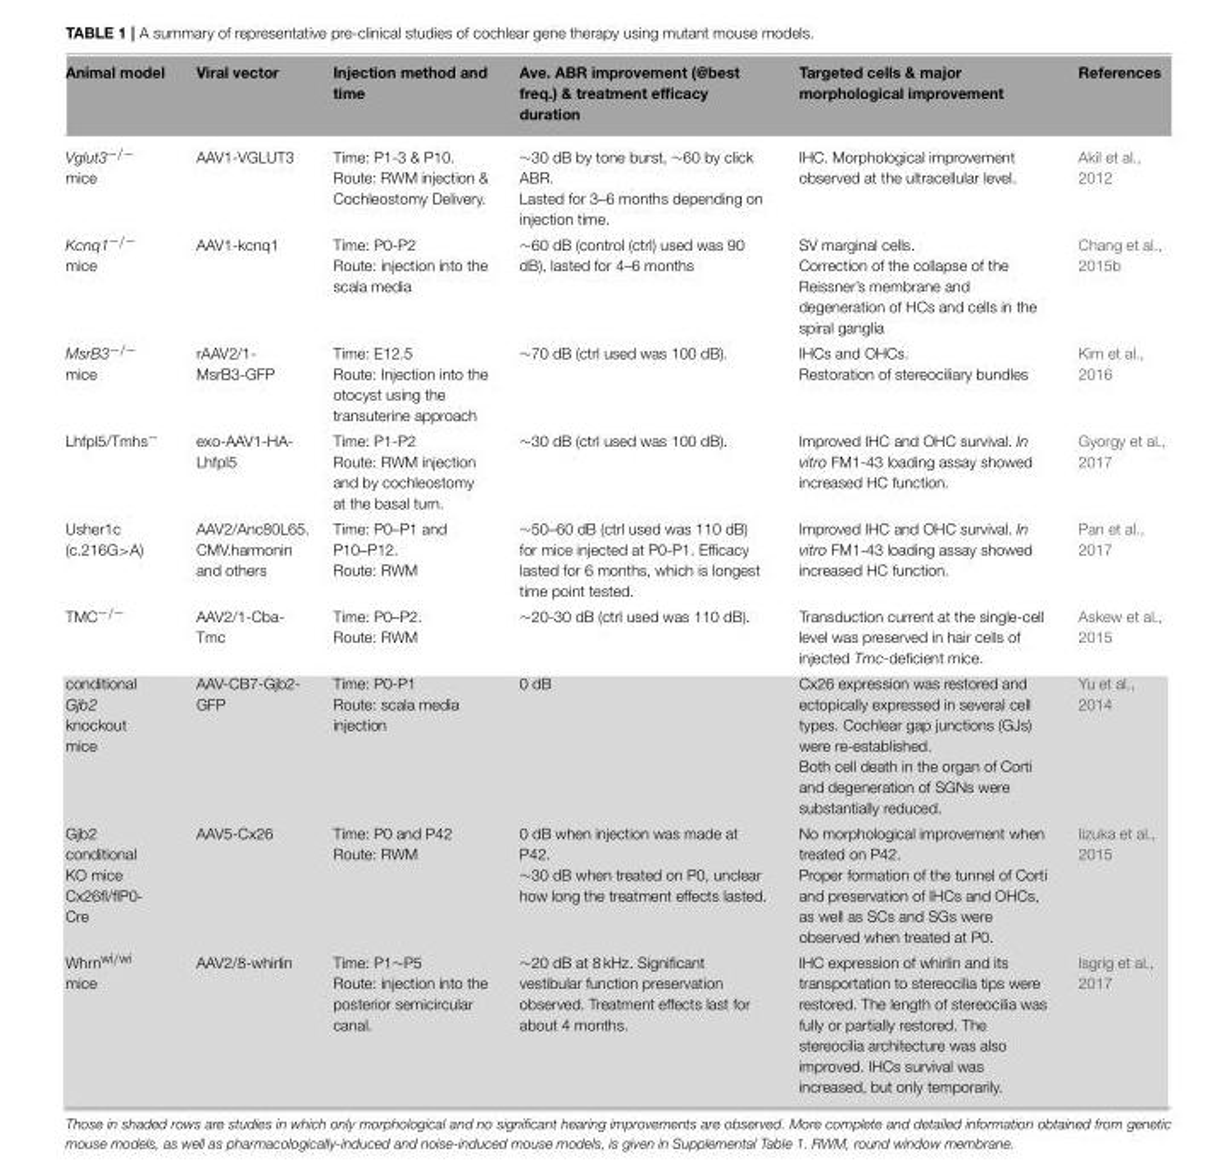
<table><thead><tr><td>Animal model</td><td>Viral vector</td><td>Injection method and time</td><td>Ave. ABR improvement (@best freq.) &amp; treatment efficacy duration</td><td>Targeted cells &amp; major morphological improvement</td><td>References</td></tr></thead><tbody><tr><td>Vglut3<sup>−/−</sup> mice</td><td>AAV1-VGLUT3</td><td>Time: P1-3 &amp; P10. Route: RWM injection &amp; Cochleostomy Delivery.</td><td>∼30 dB by tone burst, ∼60 by click ABR. Lasted for 3–6 months depending on injection time.</td><td>IHC. Morphological improvement observed at the ultracellular level.</td><td>Akil et al., 2012</td></tr><tr><td>Kcnq1<sup>−/−</sup> mice</td><td>AAV1-kcnq1</td><td>Time: P0-P2 Route: injection into the scala media</td><td>∼60 dB (control (ctrl) used was 90 dB), lasted for 4–6 months</td><td>SV marginal cells. Correction of the collapse of the Reissner’s membrane and degeneration of HCs and cells in the spiral ganglia</td><td>Chang et al., 2015b</td></tr><tr><td>MsrB3<sup>−/−</sup> mice</td><td>rAAV2/1- MsrB3-GFP</td><td>Time: E12.5 Route: Injection into the otocyst using the transuterine approach</td><td>∼70 dB (ctrl used was 100 dB).</td><td>IHCs and OHCs. Restoration of stereociliary bundles</td><td>Kim et al., 2016</td></tr><tr><td>Lhfpl5/Tmhs<sup>−</sup></td><td>exo-AAV1-HA- Lhfpl5</td><td>Time: P1-P2 Route: RWM injection and by cochleostomy at the basal turn.</td><td>∼30 dB (ctrl used was 100 dB).</td><td>Improved IHC and OHC survival. In vitro FM1-43 loading assay showed increased HC function.</td><td>Gyorgy et al., 2017</td></tr><tr><td>Usher1c (c.216G&gt;A)</td><td>AAV2/Anc80L65. CMV.harmonin and others</td><td>Time: P0–P1 and P10–P12. Route: RWM</td><td>∼50–60 dB (ctrl used was 110 dB) for mice injected at P0-P1. Efficacy lasted for 6 months, which is longest time point tested.</td><td>Improved IHC and OHC survival. In vitro FM1-43 loading assay showed increased HC function.</td><td>Pan et al., 2017</td></tr><tr><td>TMC<sup>−/−</sup></td><td>AAV2/1-Cba- Tmc</td><td>Time: P0–P2. Route: RWM</td><td>∼20-30 dB (ctrl used was 110 dB).</td><td>Transduction current at the single-cell level was preserved in hair cells of injected Tmc-deficient mice.</td><td>Askew et al., 2015</td></tr><tr><td>conditional Gjb2 knockout mice</td><td>AAV-CB7-Gjb2- GFP</td><td>Time: P0-P1 Route: scala media injection</td><td>0 dB</td><td>Cx26 expression was restored and ectopically expressed in several cell types. Cochlear gap junctions (GJs) were re-established. Both cell death in the organ of Corti and degeneration of SGNs were substantially reduced.</td><td>Yu et al., 2014</td></tr><tr><td>Gjb2 conditional KO mice Cx26fl/flP0- Cre</td><td>AAV5-Cx26</td><td>Time: P0 and P42 Route: RWM</td><td>0 dB when injection was made at P42. ∼30 dB when treated on P0, unclear how long the treatment effects lasted.</td><td>No morphological improvement when treated on P42. Proper formation of the tunnel of Corti and preservation of IHCs and OHCs, as well as SCs and SGs were observed when treated at P0.</td><td>Iizuka et al., 2015</td></tr><tr><td>Whrn<sup>wi/wi</sup> mice</td><td>AAV2/8-whirlin</td><td>Time: P1∼P5 Route: injection into the posterior semicircular canal.</td><td>∼20 dB at 8 kHz. Significant vestibular function preservation observed. Treatment effects last for about 4 months.</td><td>IHC expression of whirlin and its transportation to stereocilia tips were restored. The length of stereocilia was fully or partially restored. The stereocilia architecture was also improved. IHCs survival was increased, but only temporarily.</td><td>Isgrig et al., 2017</td></tr></tbody></table>